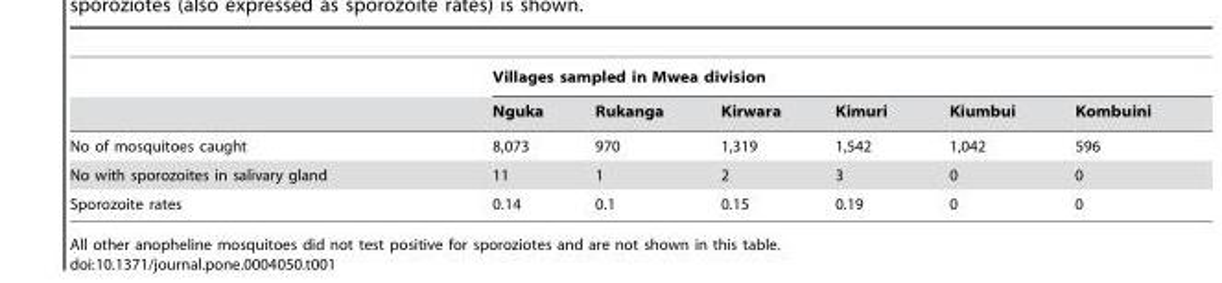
<table><thead><tr><td rowspan="2"></td><td colspan="6">Villages sampled in Mwea division</td></tr><tr><td>Nguka</td><td>Rukanga</td><td>Kirwara</td><td>Kimuri</td><td>Kiumbui</td><td>Kombuini</td></tr></thead><tbody><tr><td>No of mosquitoes caught</td><td>8,073</td><td>970</td><td>1,319</td><td>1,542</td><td>1,042</td><td>596</td></tr><tr><td>No with sporozoites in salivary gland</td><td>11</td><td>1</td><td>2</td><td>3</td><td>0</td><td>0</td></tr><tr><td>Sporozoite rates</td><td>0.14</td><td>0.1</td><td>0.15</td><td>0.19</td><td>0</td><td>0</td></tr></tbody></table>